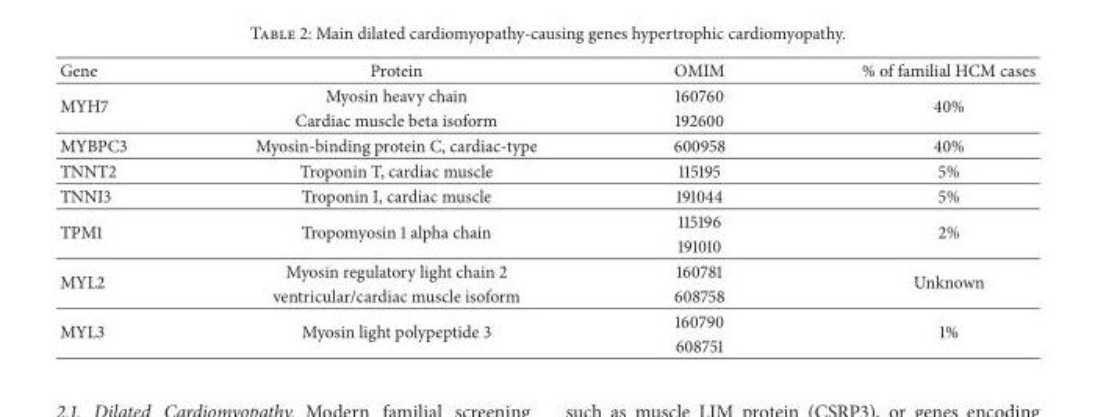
<table><thead><tr><td>Gene</td><td>Protein</td><td>OMIM</td><td>% of familial HCM cases</td></tr></thead><tbody><tr><td rowspan="2">MYH7</td><td>Myosin heavy chain</td><td>160760</td><td rowspan="2">40%</td></tr><tr><td>Cardiac muscle beta isoform</td><td>192600</td></tr><tr><td>MYBPC3</td><td>Myosin-binding protein C, cardiac-type</td><td>600958</td><td>40%</td></tr><tr><td>TNNT2</td><td>Troponin T, cardiac muscle</td><td>115195</td><td>5%</td></tr><tr><td>TNNI3</td><td>Troponin I, cardiac muscle</td><td>191044</td><td>5%</td></tr><tr><td rowspan="2">TPM1</td><td rowspan="2">Tropomyosin 1 alpha chain</td><td>115196</td><td rowspan="2">2%</td></tr><tr><td>191010</td></tr><tr><td rowspan="2">MYL2</td><td>Myosin regulatory light chain 2</td><td>160781</td><td rowspan="2">Unknown</td></tr><tr><td>ventricular/cardiac muscle isoform</td><td>608758</td></tr><tr><td rowspan="2">MYL3</td><td rowspan="2">Myosin light polypeptide 3</td><td>160790</td><td rowspan="2">1%</td></tr><tr><td>608751</td></tr></tbody></table>